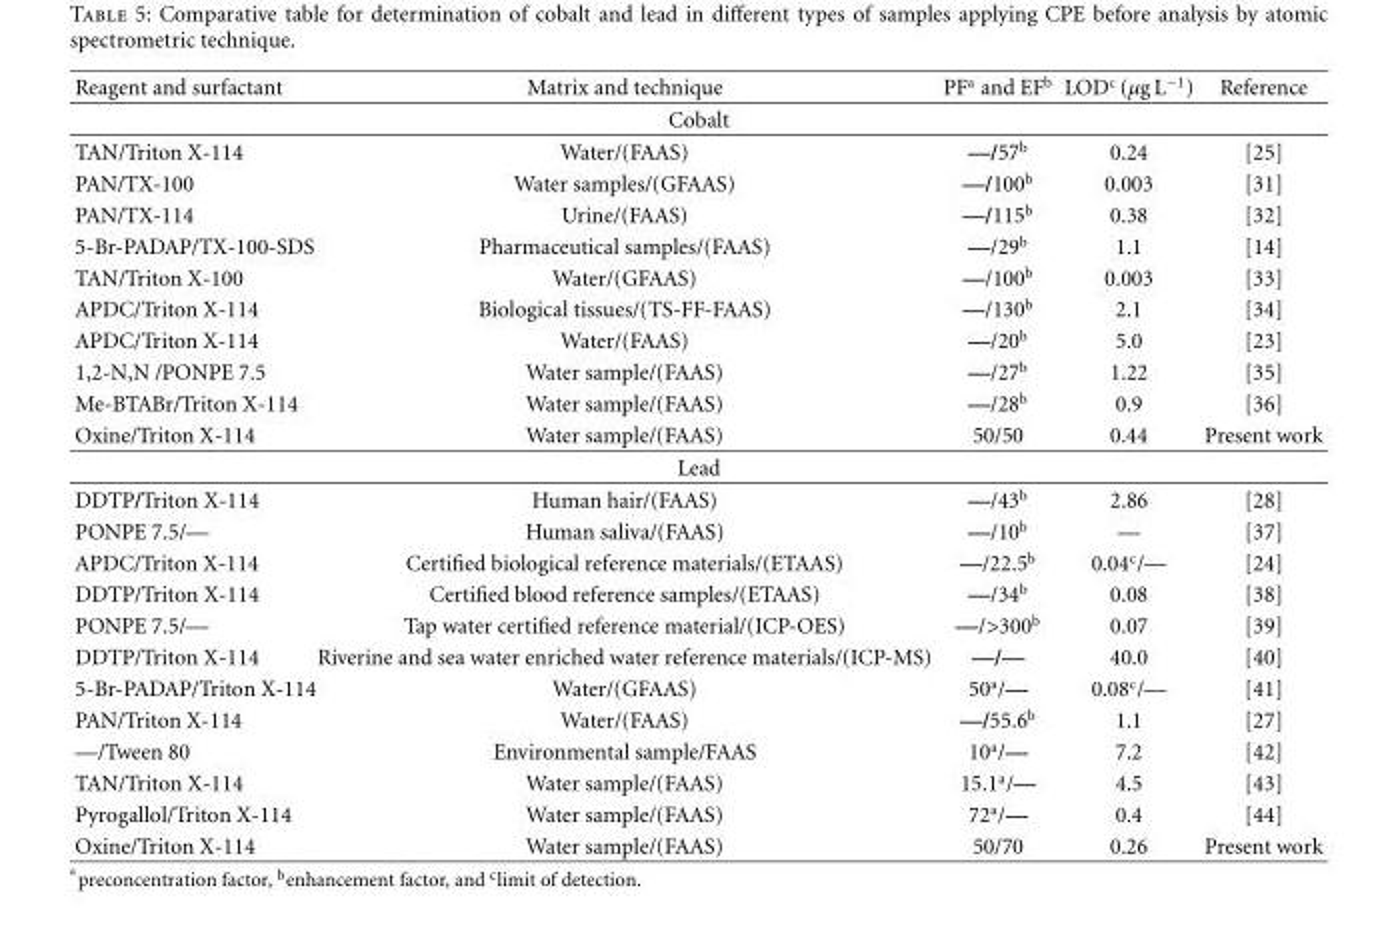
<table><thead><tr><td>Reagent and surfactant</td><td>Matrix and technique</td><td>PF<sup>a</sup> and EF<sup>b</sup></td><td>LOD<sup>c</sup> (µg L<sup>−1</sup>)</td><td>Reference</td></tr></thead><tbody><tr><td colspan="5">Cobalt</td></tr><tr><td>TAN/Triton X-114</td><td>Water/(FAAS)</td><td>—/57<sup>b</sup></td><td>0.24</td><td>[25]</td></tr><tr><td>PAN/TX-100</td><td>Water samples/(GFAAS)</td><td>—/100<sup>b</sup></td><td>0.003</td><td>[31]</td></tr><tr><td>PAN/TX-114</td><td>Urine/(FAAS)</td><td>—/115<sup>b</sup></td><td>0.38</td><td>[32]</td></tr><tr><td>5-Br-PADAP/TX-100-SDS</td><td>Pharmaceutical samples/(FAAS)</td><td>—/29<sup>b</sup></td><td>1.1</td><td>[14]</td></tr><tr><td>TAN/Triton X-100</td><td>Water/(GFAAS)</td><td>—/100<sup>b</sup></td><td>0.003</td><td>[33]</td></tr><tr><td>APDC/Triton X-114</td><td>Biological tissues/(TS-FF-FAAS)</td><td>—/130<sup>b</sup></td><td>2.1</td><td>[34]</td></tr><tr><td>APDC/Triton X-114</td><td>Water/(FAAS)</td><td>—/20<sup>b</sup></td><td>5.0</td><td>[23]</td></tr><tr><td>1,2-N,N /PONPE 7.5</td><td>Water sample/(FAAS)</td><td>—/27<sup>b</sup></td><td>1.22</td><td>[35]</td></tr><tr><td>Me-BTABr/Triton X-114</td><td>Water sample/(FAAS)</td><td>—/28<sup>b</sup></td><td>0.9</td><td>[36]</td></tr><tr><td>Oxine/Triton X-114</td><td>Water sample/(FAAS)</td><td>50/50</td><td>0.44</td><td>Present work</td></tr><tr><td colspan="5">Lead</td></tr><tr><td>DDTP/Triton X-114</td><td>Human hair/(FAAS)</td><td>—/43<sup>b</sup></td><td>2.86</td><td>[28]</td></tr><tr><td>PONPE 7.5/—</td><td>Human saliva/(FAAS)</td><td>—/10<sup>b</sup></td><td>—</td><td>[37]</td></tr><tr><td>APDC/Triton X-114</td><td>Certified biological reference materials/(ETAAS)</td><td>—/22.5<sup>b</sup></td><td>0.04<sup>c</sup>/—</td><td>[24]</td></tr><tr><td>DDTP/Triton X-114</td><td>Certified blood reference samples/(ETAAS)</td><td>—/34<sup>b</sup></td><td>0.08</td><td>[38]</td></tr><tr><td>PONPE 7.5/—</td><td>Tap water certified reference material/(ICP-OES)</td><td>—/&gt;300<sup>b</sup></td><td>0.07</td><td>[39]</td></tr><tr><td>DDTP/Triton X-114</td><td>Riverine and sea water enriched water reference materials/(ICP-MS)</td><td>—/—</td><td>40.0</td><td>[40]</td></tr><tr><td>5-Br-PADAP/Triton X-114</td><td>Water/(GFAAS)</td><td>50<sup>a</sup>/—</td><td>0.08<sup>c</sup>/—</td><td>[41]</td></tr><tr><td>PAN/Triton X-114</td><td>Water/(FAAS)</td><td>—/55.6<sup>b</sup></td><td>1.1</td><td>[27]</td></tr><tr><td>—/Tween 80</td><td>Environmental sample/FAAS</td><td>10<sup>a</sup>/—</td><td>7.2</td><td>[42]</td></tr><tr><td>TAN/Triton X-114</td><td>Water sample/(FAAS)</td><td>15.1<sup>a</sup>/—</td><td>4.5</td><td>[43]</td></tr><tr><td>Pyrogallol/Triton X-114</td><td>Water sample/(FAAS)</td><td>72<sup>a</sup>/—</td><td>0.4</td><td>[44]</td></tr><tr><td>Oxine/Triton X-114</td><td>Water sample/(FAAS)</td><td>50/70</td><td>0.26</td><td>Present work</td></tr></tbody></table>